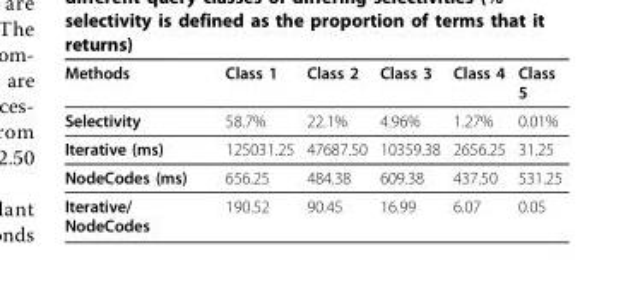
<table><thead><tr><td>Methods</td><td>Class 1</td><td>Class 2</td><td>Class 3</td><td>Class 4</td><td>Class 5</td></tr></thead><tbody><tr><td>Selectivity</td><td>58.7%</td><td>22.1%</td><td>4.96%</td><td>1.27%</td><td>0.01%</td></tr><tr><td>Iterative (ms)</td><td>125031.25</td><td>47687.50</td><td>10359.38</td><td>2656.25</td><td>31.25</td></tr><tr><td>NodeCodes (ms)</td><td>656.25</td><td>484.38</td><td>609.38</td><td>437.50</td><td>531.25</td></tr><tr><td>Iterative/ NodeCodes</td><td>190.52</td><td>90.45</td><td>16.99</td><td>6.07</td><td>0.05</td></tr></tbody></table>